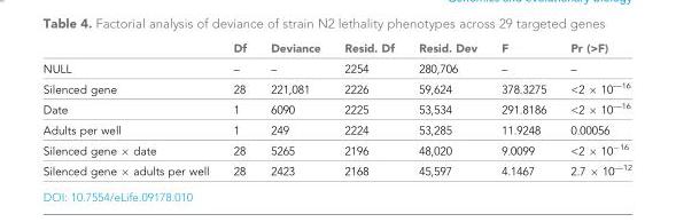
<table><thead><tr><td></td><td>Df</td><td>Deviance</td><td>Resid. Df</td><td>Resid. Dev</td><td>F</td><td>Pr (&gt;F)</td></tr></thead><tbody><tr><td>NULL</td><td>–</td><td>–</td><td>2254</td><td>280,706</td><td>–</td><td>–</td></tr><tr><td>Silenced gene</td><td>28</td><td>221,081</td><td>2226</td><td>59,624</td><td>378.3275</td><td>&lt;2 × 10<sup>—16</sup></td></tr><tr><td>Date</td><td>1</td><td>6090</td><td>2225</td><td>53,534</td><td>291.8186</td><td>&lt;2 × 10<sup>—16</sup></td></tr><tr><td>Adults per well</td><td>1</td><td>249</td><td>2224</td><td>53,285</td><td>11.9248</td><td>0.00056</td></tr><tr><td>Silenced gene × date</td><td>28</td><td>5265</td><td>2196</td><td>48,020</td><td>9.0099</td><td>&lt;2 × 10<sup>−16</sup></td></tr><tr><td>Silenced gene × adults per well</td><td>28</td><td>2423</td><td>2168</td><td>45,597</td><td>4.1467</td><td>2.7 × 10<sup>—12</sup></td></tr></tbody></table>